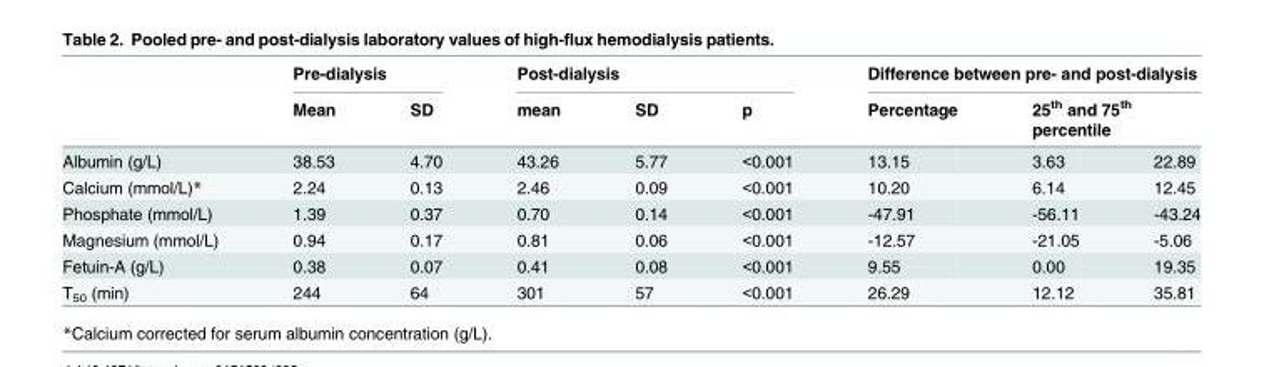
<table><thead><tr><td rowspan="3">Albumin (g/L)</td><td colspan="2">Pre-dialysis</td><td colspan="3">Post-dialysis</td><td colspan="3">Difference between pre- and post-dialysis</td></tr><tr><td rowspan="2">Mean 38.53</td><td rowspan="2">SD 4.70</td><td rowspan="2">mean 43.26</td><td rowspan="2">SD 5.77</td><td rowspan="2">p &lt;0.001</td><td rowspan="2">Percentage 13.15</td><td colspan="2">25<sup>th</sup> and 75<sup>th</sup> percentile</td></tr><tr><td>3.63</td><td>22.89</td></tr></thead><tbody><tr><td>Calcium (mmol/L)*</td><td>2.24</td><td>0.13</td><td>2.46</td><td>0.09</td><td>&lt;0.001</td><td>10.20</td><td>6.14</td><td>12.45</td></tr><tr><td>Phosphate (mmol/L)</td><td>1.39</td><td>0.37</td><td>0.70</td><td>0.14</td><td>&lt;0.001</td><td>-47.91</td><td>-56.11</td><td>-43.24</td></tr><tr><td>Magnesium (mmol/L)</td><td>0.94</td><td>0.17</td><td>0.81</td><td>0.06</td><td>&lt;0.001</td><td>-12.57</td><td>-21.05</td><td>-5.06</td></tr><tr><td>Fetuin-A (g/L)</td><td>0.38</td><td>0.07</td><td>0.41</td><td>0.08</td><td>&lt;0.001</td><td>9.55</td><td>0.00</td><td>19.35</td></tr><tr><td>T<sub>50</sub> (min)</td><td>244</td><td>64</td><td>301</td><td>57</td><td>&lt;0.001</td><td>26.29</td><td>12.12</td><td>35.81</td></tr></tbody></table>